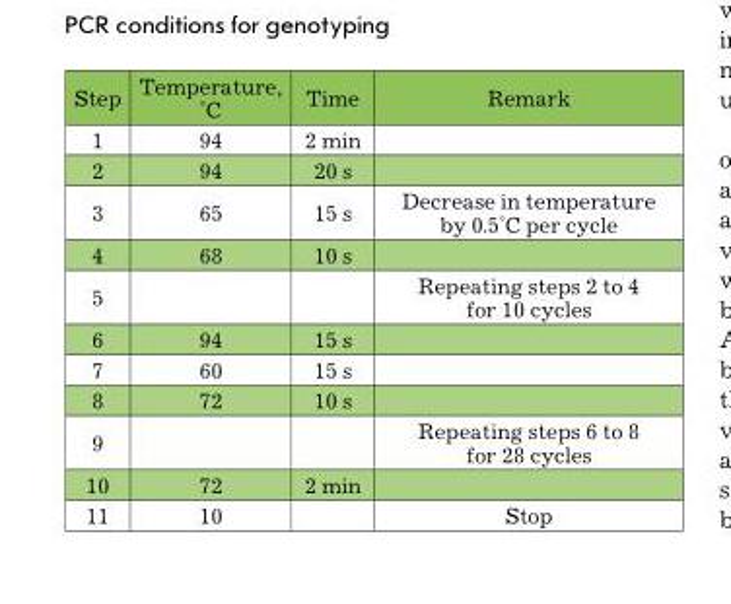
<table><thead><tr><td>Step</td><td>Temperature, °C</td><td>Time</td><td>Remark</td></tr></thead><tbody><tr><td>1</td><td>94</td><td>2 min</td><td></td></tr><tr><td>2</td><td>94</td><td>20 s</td><td></td></tr><tr><td>3</td><td>65</td><td>15 s</td><td>Decrease in temperature by 0.5°C per cycle</td></tr><tr><td>4</td><td>68</td><td>10 s</td><td></td></tr><tr><td>5</td><td></td><td></td><td>Repeating steps 2 to 4 for 10 cycles</td></tr><tr><td>6</td><td>94</td><td>15 s</td><td></td></tr><tr><td>7</td><td>60</td><td>15 s</td><td></td></tr><tr><td>8</td><td>72</td><td>10 s</td><td></td></tr><tr><td>9</td><td></td><td></td><td>Repeating steps 6 to 8 for 28 cycles</td></tr><tr><td>10</td><td>72</td><td>2 min</td><td></td></tr><tr><td>11</td><td>10</td><td></td><td>Stop</td></tr></tbody></table>